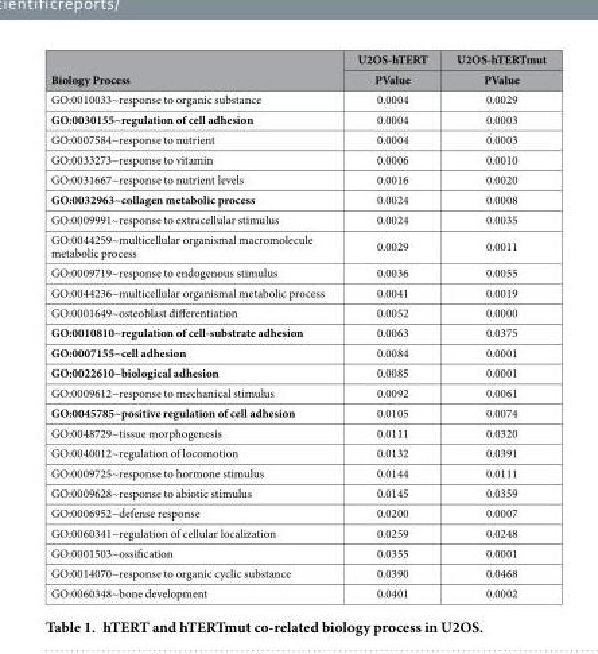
<table><thead><tr><td rowspan="2">Biology Process</td><td rowspan="2">U2OS-hTERT PValue</td><td rowspan="2">U2OS-hTERTmut PValue</td></tr><tr></tr></thead><tbody><tr><td>GO:0010033~response to organic substance</td><td>0.0004</td><td>0.0029</td></tr><tr><td>GO:0030155~regulation of cell adhesion</td><td>0.0004</td><td>0.0003</td></tr><tr><td>GO:0007584~response to nutrient</td><td>0.0004</td><td>0.0003</td></tr><tr><td>GO:0033273~response to vitamin</td><td>0.0006</td><td>0.0010</td></tr><tr><td>GO:0031667~response to nutrient levels</td><td>0.0016</td><td>0.0020</td></tr><tr><td>GO:0032963~collagen metabolic process</td><td>0.0024</td><td>0.0008</td></tr><tr><td>GO:0009991~response to extracellular stimulus</td><td>0.0024</td><td>0.0035</td></tr><tr><td>GO:0044259~multicellular organismal macromolecule metabolic process</td><td>0.0029</td><td>0.0011</td></tr><tr><td>GO:0009719~response to endogenous stimulus</td><td>0.0036</td><td>0.0055</td></tr><tr><td>GO:0044236~multicellular organismal metabolic process</td><td>0.0041</td><td>0.0019</td></tr><tr><td>GO:0001649~osteoblast differentiation</td><td>0.0052</td><td>0.0000</td></tr><tr><td>GO:0010810~regulation of cell-substrate adhesion</td><td>0.0063</td><td>0.0375</td></tr><tr><td>GO:0007155~cell adhesion</td><td>0.0084</td><td>0.0001</td></tr><tr><td>GO:0022610~biological adhesion</td><td>0.0085</td><td>0.0001</td></tr><tr><td>GO:0009612~response to mechanical stimulus</td><td>0.0092</td><td>0.0061</td></tr><tr><td>GO:0045785~positive regulation of cell adhesion</td><td>0.0105</td><td>0.0074</td></tr><tr><td>GO:0048729~tissue morphogenesis</td><td>0.0111</td><td>0.0320</td></tr><tr><td>GO:0040012~regulation of locomotion</td><td>0.0132</td><td>0.0391</td></tr><tr><td>GO:0009725~response to hormone stimulus</td><td>0.0144</td><td>0.0111</td></tr><tr><td>GO:0009628~response to abiotic stimulus</td><td>0.0145</td><td>0.0359</td></tr><tr><td>GO:0006952~defense response</td><td>0.0200</td><td>0.0007</td></tr><tr><td>GO:0060341~regulation of cellular localization</td><td>0.0259</td><td>0.0248</td></tr><tr><td>GO:0001503~ossification</td><td>0.0355</td><td>0.0001</td></tr><tr><td>GO:0014070~response to organic cyclic substance</td><td>0.0390</td><td>0.0468</td></tr><tr><td>GO:0060348~bone development</td><td>0.0401</td><td>0.0002</td></tr></tbody></table>